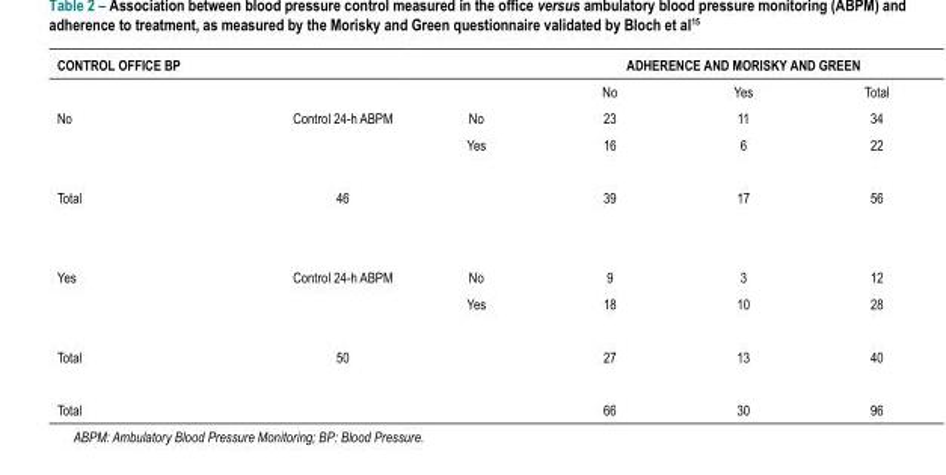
<table><thead><tr><td rowspan="2">CONTROL OFFICE BP</td><td rowspan="2"></td><td rowspan="2"></td><td colspan="3">ADHERENCE AND MORISKY AND GREEN</td></tr><tr><td>No</td><td>Yes</td><td>Total</td></tr></thead><tbody><tr><td rowspan="2">No</td><td>Control 24-h ABPM</td><td>No</td><td>23</td><td>11</td><td>34</td></tr><tr><td></td><td>Yes</td><td>16</td><td>6</td><td>22</td></tr><tr><td>Total</td><td>46</td><td></td><td>39</td><td>17</td><td>56</td></tr><tr><td rowspan="2">Yes</td><td>Control 24-h ABPM</td><td>No</td><td>9</td><td>3</td><td>12</td></tr><tr><td></td><td>Yes</td><td>18</td><td>10</td><td>28</td></tr><tr><td>Total</td><td>50</td><td></td><td>27</td><td>13</td><td>40</td></tr><tr><td>Total</td><td></td><td></td><td>66</td><td>30</td><td>96</td></tr></tbody></table>